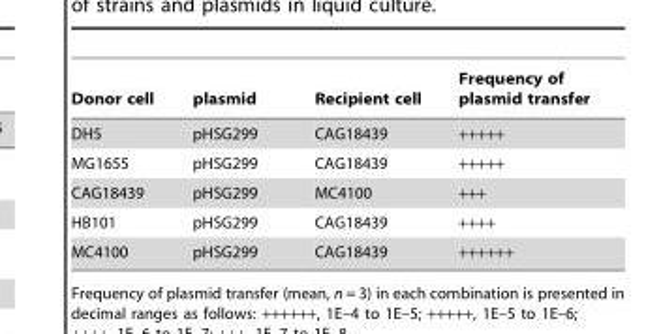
<table><thead><tr><td>Donor cell</td><td>plasmid</td><td>Recipient cell</td><td>Frequency of plasmid transfer</td></tr></thead><tbody><tr><td>DH5</td><td>pHSG299</td><td>CAG18439</td><td>+++++</td></tr><tr><td>MG1655</td><td>pHSG299</td><td>CAG18439</td><td>+++++</td></tr><tr><td>CAG18439</td><td>pHSG299</td><td>MC4100</td><td>+++</td></tr><tr><td>HB101</td><td>pHSG299</td><td>CAG18439</td><td>++++</td></tr><tr><td>MC4100</td><td>pHSG299</td><td>CAG18439</td><td>++++++</td></tr></tbody></table>